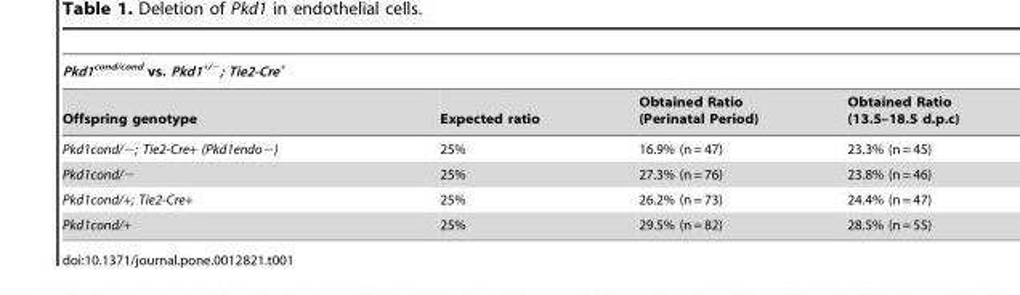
<table><thead><tr><td colspan="4">Pkd1<sup>cond/cond</sup> vs. Pkd1<sup>+/−</sup>; Tie2-Cre<sup>+</sup></td></tr><tr><td>Offspring genotype</td><td>Expected ratio</td><td>Obtained Ratio (Perinatal Period)</td><td>Obtained Ratio (13.5–18.5 d.p.c)</td></tr></thead><tbody><tr><td>Pkd1cond/−; Tie2-Cre+ (Pkd1endo−)</td><td>25%</td><td>16.9% (n = 47)</td><td>23.3% (n = 45)</td></tr><tr><td>Pkd1cond/−</td><td>25%</td><td>27.3% (n = 76)</td><td>23.8% (n = 46)</td></tr><tr><td>Pkd1cond/+; Tie2-Cre+</td><td>25%</td><td>26.2% (n = 73)</td><td>24.4% (n = 47)</td></tr><tr><td>Pkd1cond/+</td><td>25%</td><td>29.5% (n = 82)</td><td>28.5% (n = 55)</td></tr></tbody></table>